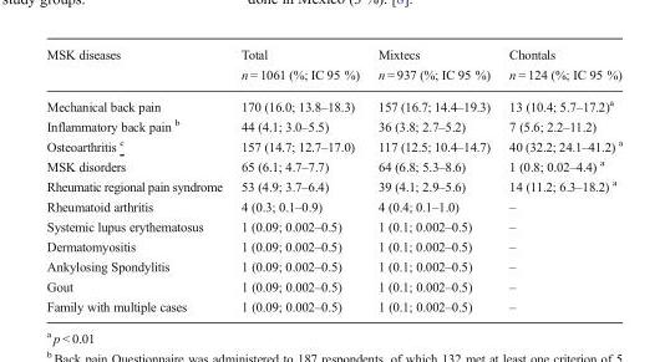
<table><thead><tr><td>MSK diseases</td><td>Total n = 1061 (%; IC 95 %)</td><td>Mixtecs n = 937 (%; IC 95 %)</td><td>Chontals n = 124 (%; IC 95 %)</td></tr></thead><tbody><tr><td>Mechanical back pain</td><td>170 (16.0; 13.8–18.3)</td><td>157 (16.7; 14.4–19.3)</td><td>13 (10.4; 5.7–17.2)<sup>a</sup></td></tr><tr><td>Inflammatory back pain <sup>b</sup></td><td>44 (4.1; 3.0–5.5)</td><td>36 (3.8; 2.7–5.2)</td><td>7 (5.6; 2.2–11.2)</td></tr><tr><td>Osteoarthritis <sup>c</sup></td><td>157 (14.7; 12.7–17.0)</td><td>117 (12.5; 10.4–14.7)</td><td>40 (32.2; 24.1–41.2) <sup>a</sup></td></tr><tr><td>MSK disorders</td><td>65 (6.1; 4.7–7.7)</td><td>64 (6.8; 5.3–8.6)</td><td>1 (0.8; 0.02–4.4) <sup>a</sup></td></tr><tr><td>Rheumatic regional pain syndrome</td><td>53 (4.9; 3.7–6.4)</td><td>39 (4.1; 2.9–5.6)</td><td>14 (11.2; 6.3–18.2) <sup>a</sup></td></tr><tr><td>Rheumatoid arthritis</td><td>4 (0.3; 0.1–0.9)</td><td>4 (0.4; 0.1–1.0)</td><td>–</td></tr><tr><td>Systemic lupus erythematosus</td><td>1 (0.09; 0.002–0.5)</td><td>1 (0.1; 0.002–0.5)</td><td>–</td></tr><tr><td>Dermatomyositis</td><td>1 (0.09; 0.002–0.5)</td><td>1 (0.1; 0.002–0.5)</td><td>–</td></tr><tr><td>Ankylosing Spondylitis</td><td>1 (0.09; 0.002–0.5)</td><td>1 (0.1; 0.002–0.5)</td><td>–</td></tr><tr><td>Gout</td><td>1 (0.09; 0.002–0.5)</td><td>1 (0.1; 0.002–0.5)</td><td>–</td></tr><tr><td>Family with multiple cases</td><td>1 (0.09; 0.002–0.5)</td><td>1 (0.1; 0.002–0.5)</td><td>–</td></tr></tbody></table>